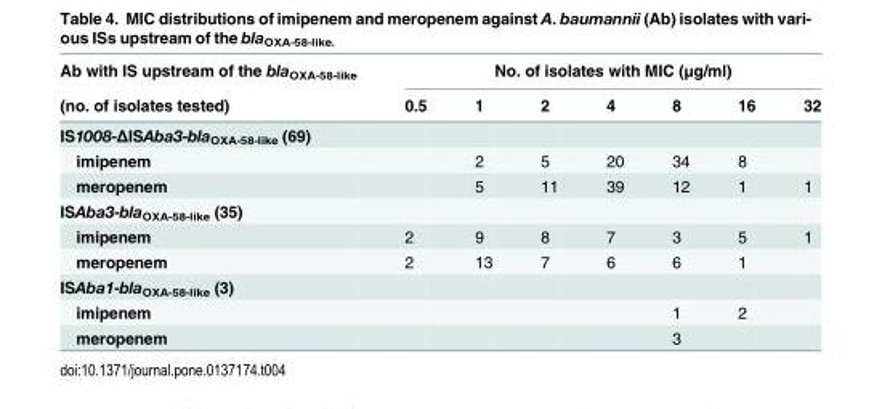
<table><thead><tr><td rowspan="2">Ab with IS upstream of the bla<sub>OXA-58-like</sub> (no. of isolates tested)</td><td colspan="7">No. of isolates with MIC (μg/ml)</td></tr><tr><td>0.5</td><td>1</td><td>2</td><td>4</td><td>8</td><td>16</td><td>32</td></tr></thead><tbody><tr><td colspan="8">IS1008-ΔISAba3-bla<sub>OXA-58-like</sub> (69)</td></tr><tr><td>imipenem</td><td></td><td>2</td><td>5</td><td>20</td><td>34</td><td>8</td><td></td></tr><tr><td>meropenem</td><td></td><td>5</td><td>11</td><td>39</td><td>12</td><td>1</td><td>1</td></tr><tr><td colspan="8">ISAba3-bla<sub>OXA-58-like</sub> (35)</td></tr><tr><td>imipenem</td><td>2</td><td>9</td><td>8</td><td>7</td><td>3</td><td>5</td><td>1</td></tr><tr><td>meropenem</td><td>2</td><td>13</td><td>7</td><td>6</td><td>6</td><td>1</td><td></td></tr><tr><td colspan="8">ISAba1-bla<sub>OXA-58-like</sub> (3)</td></tr><tr><td>imipenem</td><td></td><td></td><td></td><td></td><td>1</td><td>2</td><td></td></tr><tr><td>meropenem</td><td></td><td></td><td></td><td></td><td>3</td><td></td><td></td></tr></tbody></table>